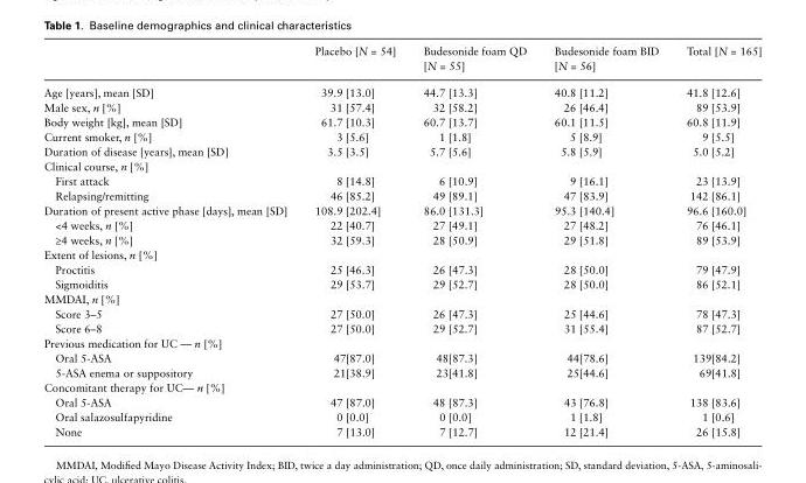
<table><thead><tr><td></td><td>Placebo [N = 54]</td><td>Budesonide foam QD [N = 55]</td><td>Budesonide foam BID [N = 56]</td><td>Total [N = 165]</td></tr></thead><tbody><tr><td>Age [years], mean [SD]</td><td>39.9 [13.0]</td><td>44.7 [13.3]</td><td>40.8 [11.2]</td><td>41.8 [12.6]</td></tr><tr><td>Male sex, n [%]</td><td>31 [57.4]</td><td>32 [58.2]</td><td>26 [46.4]</td><td>89 [53.9]</td></tr><tr><td>Body weight [kg], mean [SD]</td><td>61.7 [10.3]</td><td>60.7 [13.7]</td><td>60.1 [11.5]</td><td>60.8 [11.9]</td></tr><tr><td>Current smoker, n [%]</td><td>3 [5.6]</td><td>1 [1.8]</td><td>5 [8.9]</td><td>9 [5.5]</td></tr><tr><td>Duration of disease [years], mean [SD]</td><td>3.5 [3.5]</td><td>5.7 [5.6]</td><td>5.8 [5.9]</td><td>5.0 [5.2]</td></tr><tr><td colspan="5">Clinical course, n [%]</td></tr><tr><td>First attack</td><td>8 [14.8]</td><td>6 [10.9]</td><td>9 [16.1]</td><td>23 [13.9]</td></tr><tr><td>Relapsing/remitting</td><td>46 [85.2]</td><td>49 [89.1]</td><td>47 [83.9]</td><td>142 [86.1]</td></tr><tr><td>Duration of present active phase [days], mean [SD]</td><td>108.9 [202.4]</td><td>86.0 [131.3]</td><td>95.3 [140.4]</td><td>96.6 [160.0]</td></tr><tr><td>&lt;4 weeks, n [%]</td><td>22 [40.7]</td><td>27 [49.1]</td><td>27 [48.2]</td><td>76 [46.1]</td></tr><tr><td>≥4 weeks, n [%]</td><td>32 [59.3]</td><td>28 [50.9]</td><td>29 [51.8]</td><td>89 [53.9]</td></tr><tr><td colspan="5">Extent of lesions, n [%]</td></tr><tr><td>Proctitis</td><td>25 [46.3]</td><td>26 [47.3]</td><td>28 [50.0]</td><td>79 [47.9]</td></tr><tr><td>Sigmoiditis</td><td>29 [53.7]</td><td>29 [52.7]</td><td>28 [50.0]</td><td>86 [52.1]</td></tr><tr><td colspan="5">MMDAI, n [%]</td></tr><tr><td>Score 3–5</td><td>27 [50.0]</td><td>26 [47.3]</td><td>25 [44.6]</td><td>78 [47.3]</td></tr><tr><td>Score 6–8</td><td>27 [50.0]</td><td>29 [52.7]</td><td>31 [55.4]</td><td>87 [52.7]</td></tr><tr><td colspan="5">Previous medication for UC — n [%]</td></tr><tr><td>Oral 5-ASA</td><td>47[87.0]</td><td>48[87.3]</td><td>44[78.6]</td><td>139[84.2]</td></tr><tr><td>5-ASA enema or suppository</td><td>21[38.9]</td><td>23[41.8]</td><td>25[44.6]</td><td>69[41.8]</td></tr><tr><td colspan="5">Concomitant therapy for UC— n [%]</td></tr><tr><td>Oral 5-ASA</td><td>47 [87.0]</td><td>48 [87.3]</td><td>43 [76.8]</td><td>138 [83.6]</td></tr><tr><td>Oral salazosulfapyridine</td><td>0 [0.0]</td><td>0 [0.0]</td><td>1 [1.8]</td><td>1 [0.6]</td></tr><tr><td>None</td><td>7 [13.0]</td><td>7 [12.7]</td><td>12 [21.4]</td><td>26 [15.8]</td></tr></tbody></table>